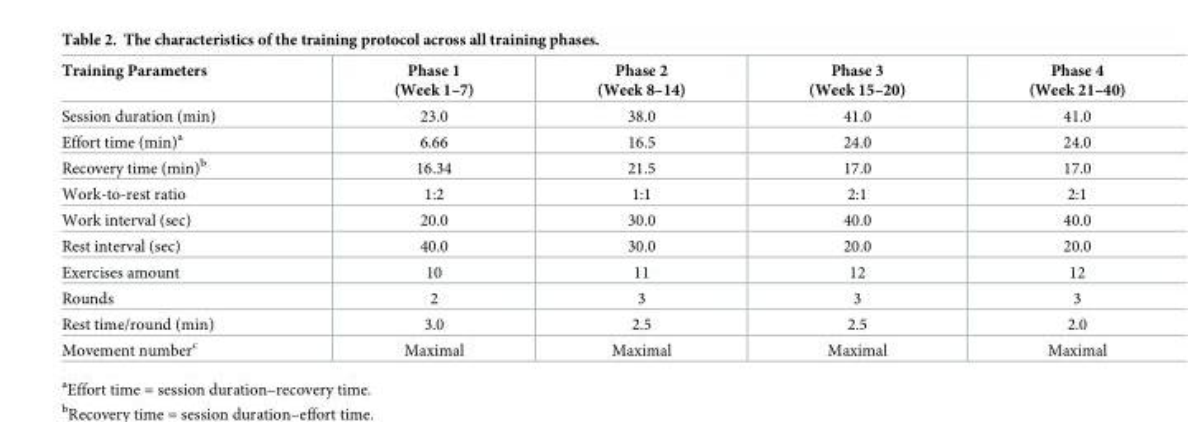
<table><thead><tr><td>Training Parameters</td><td>Phase 1 (Week 1–7)</td><td>Phase 2 (Week 8–14)</td><td>Phase 3 (Week 15–20)</td><td>Phase 4 (Week 21–40)</td></tr></thead><tbody><tr><td>Session duration (min)</td><td>23.0</td><td>38.0</td><td>41.0</td><td>41.0</td></tr><tr><td>Effort time (min)<sup>a</sup></td><td>6.66</td><td>16.5</td><td>24.0</td><td>24.0</td></tr><tr><td>Recovery time (min)<sup>b</sup></td><td>16.34</td><td>21.5</td><td>17.0</td><td>17.0</td></tr><tr><td>Work-to-rest ratio</td><td>1:2</td><td>1:1</td><td>2:1</td><td>2:1</td></tr><tr><td>Work interval (sec)</td><td>20.0</td><td>30.0</td><td>40.0</td><td>40.0</td></tr><tr><td>Rest interval (sec)</td><td>40.0</td><td>30.0</td><td>20.0</td><td>20.0</td></tr><tr><td>Exercises amount</td><td>10</td><td>11</td><td>12</td><td>12</td></tr><tr><td>Rounds</td><td>2</td><td>3</td><td>3</td><td>3</td></tr><tr><td>Rest time/round (min)</td><td>3.0</td><td>2.5</td><td>2.5</td><td>2.0</td></tr><tr><td>Movement number<sup>c</sup></td><td>Maximal</td><td>Maximal</td><td>Maximal</td><td>Maximal</td></tr></tbody></table>